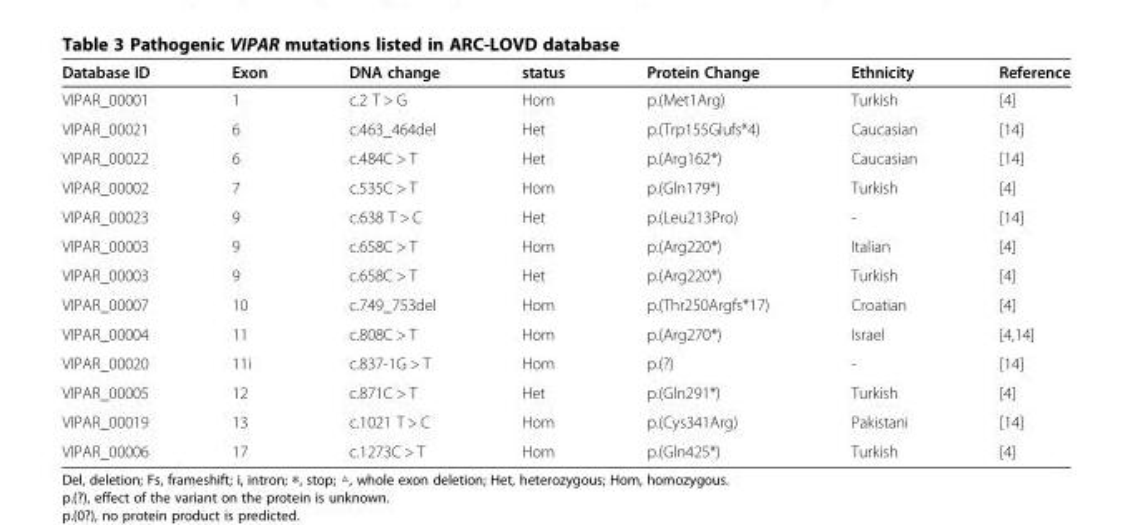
<table><thead><tr><td>Database ID</td><td>Exon</td><td>DNA change</td><td>status</td><td>Protein Change</td><td>Ethnicity</td><td>Reference</td></tr></thead><tbody><tr><td>VIPAR_00001</td><td>1</td><td>c.2 T &gt; G</td><td>Hom</td><td>p.(Met1Arg)</td><td>Turkish</td><td>[4]</td></tr><tr><td>VIPAR_00021</td><td>6</td><td>c.463_464del</td><td>Het</td><td>p.(Trp155Glufs*4)</td><td>Caucasian</td><td>[14]</td></tr><tr><td>VIPAR_00022</td><td>6</td><td>c.484C &gt; T</td><td>Het</td><td>p.(Arg162*)</td><td>Caucasian</td><td>[14]</td></tr><tr><td>VIPAR_00002</td><td>7</td><td>c.535C &gt; T</td><td>Hom</td><td>p.(Gln179*)</td><td>Turkish</td><td>[4]</td></tr><tr><td>VIPAR_00023</td><td>9</td><td>c.638 T &gt; C</td><td>Het</td><td>p.(Leu213Pro)</td><td>-</td><td>[14]</td></tr><tr><td>VIPAR_00003</td><td>9</td><td>c.658C &gt; T</td><td>Hom</td><td>p.(Arg220*)</td><td>Italian</td><td>[4]</td></tr><tr><td>VIPAR_00003</td><td>9</td><td>c.658C &gt; T</td><td>Het</td><td>p.(Arg220*)</td><td>Turkish</td><td>[4]</td></tr><tr><td>VIPAR_00007</td><td>10</td><td>c.749_753del</td><td>Hom</td><td>p.(Thr250Argfs*17)</td><td>Croatian</td><td>[4]</td></tr><tr><td>VIPAR_00004</td><td>11</td><td>c.808C &gt; T</td><td>Hom</td><td>p.(Arg270*)</td><td>Israel</td><td>[4,14]</td></tr><tr><td>VIPAR_00020</td><td>11i</td><td>c.837-1G &gt; T</td><td>Hom</td><td>p.(?)</td><td>-</td><td>[14]</td></tr><tr><td>VIPAR_00005</td><td>12</td><td>c.871C &gt; T</td><td>Het</td><td>p.(Gln291*)</td><td>Turkish</td><td>[4]</td></tr><tr><td>VIPAR_00019</td><td>13</td><td>c.1021 T &gt; C</td><td>Hom</td><td>p.(Cys341Arg)</td><td>Pakistani</td><td>[14]</td></tr><tr><td>VIPAR_00006</td><td>17</td><td>c.1273C &gt; T</td><td>Hom</td><td>p.(Gln425*)</td><td>Turkish</td><td>[4]</td></tr></tbody></table>